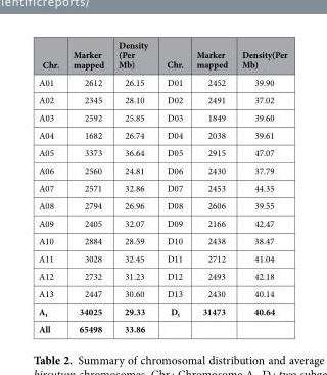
<table><thead><tr><td>Chr.</td><td>Marker mapped</td><td>Density (Per Mb)</td><td>Chr.</td><td>Marker mapped</td><td>Density(Per Mb)</td></tr></thead><tbody><tr><td>A01</td><td>2612</td><td>26.15</td><td>D01</td><td>2452</td><td>39.90</td></tr><tr><td>A02</td><td>2345</td><td>28.10</td><td>D02</td><td>2491</td><td>37.02</td></tr><tr><td>A03</td><td>2592</td><td>25.85</td><td>D03</td><td>1849</td><td>39.60</td></tr><tr><td>A04</td><td>1682</td><td>26.74</td><td>D04</td><td>2038</td><td>39.61</td></tr><tr><td>A05</td><td>3373</td><td>36.64</td><td>D05</td><td>2915</td><td>47.07</td></tr><tr><td>A06</td><td>2560</td><td>24.81</td><td>D06</td><td>2430</td><td>37.79</td></tr><tr><td>A07</td><td>2571</td><td>32.86</td><td>D07</td><td>2453</td><td>44.35</td></tr><tr><td>A08</td><td>2794</td><td>26.96</td><td>D08</td><td>2606</td><td>39.55</td></tr><tr><td>A09</td><td>2405</td><td>32.07</td><td>D09</td><td>2166</td><td>42.47</td></tr><tr><td>A10</td><td>2884</td><td>28.59</td><td>D10</td><td>2438</td><td>38.47</td></tr><tr><td>A11</td><td>3028</td><td>32.45</td><td>D11</td><td>2712</td><td>41.04</td></tr><tr><td>A12</td><td>2732</td><td>31.23</td><td>D12</td><td>2493</td><td>42.18</td></tr><tr><td>A13</td><td>2447</td><td>30.60</td><td>D13</td><td>2430</td><td>40.14</td></tr><tr><td>A<sub>t</sub></td><td>34025</td><td>29.33</td><td>D<sub>t</sub></td><td>31473</td><td>40.64</td></tr><tr><td>All</td><td>65498</td><td>33.86</td><td></td><td></td><td></td></tr></tbody></table>